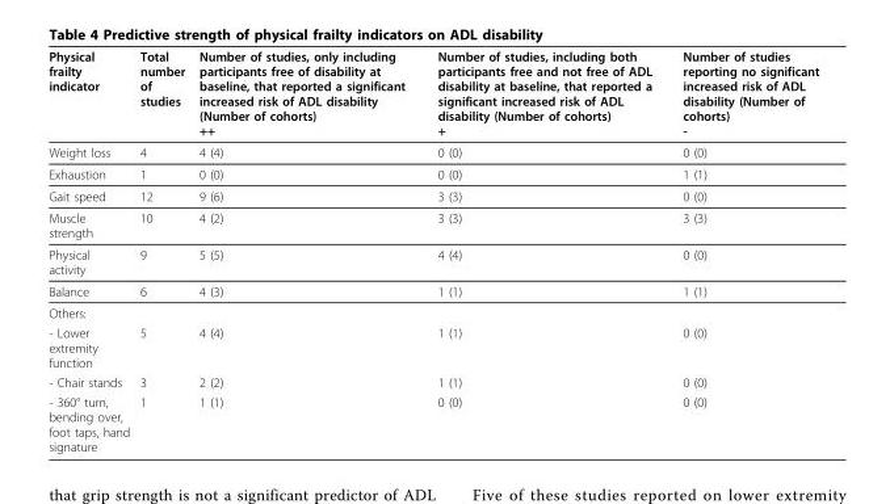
<table><thead><tr><td>Physical frailty indicator</td><td>Total number of studies</td><td>Number of studies, only including participants free of disability at baseline, that reported a significant increased risk of ADL disability (Number of cohorts) ++</td><td>Number of studies, including both participants free and not free of ADL disability at baseline, that reported a significant increased risk of ADL disability (Number of cohorts) +</td><td>Number of studies reporting no significant increased risk of ADL disability (Number of cohorts) -</td></tr></thead><tbody><tr><td>Weight loss</td><td>4</td><td>4 (4)</td><td>0 (0)</td><td>0 (0)</td></tr><tr><td>Exhaustion</td><td>1</td><td>0 (0)</td><td>0 (0)</td><td>1 (1)</td></tr><tr><td>Gait speed</td><td>12</td><td>9 (6)</td><td>3 (3)</td><td>0 (0)</td></tr><tr><td>Muscle strength</td><td>10</td><td>4 (2)</td><td>3 (3)</td><td>3 (3)</td></tr><tr><td>Physical activity</td><td>9</td><td>5 (5)</td><td>4 (4)</td><td>0 (0)</td></tr><tr><td>Balance</td><td>6</td><td>4 (3)</td><td>1 (1)</td><td>1 (1)</td></tr><tr><td colspan="5">Others:</td></tr><tr><td>- Lower extremity function</td><td>5</td><td>4 (4)</td><td>1 (1)</td><td>0 (0)</td></tr><tr><td>- Chair stands</td><td>3</td><td>2 (2)</td><td>1 (1)</td><td>0 (0)</td></tr><tr><td>- 360° turn, bending over, foot taps, hand signature</td><td>1</td><td>1 (1)</td><td>0 (0)</td><td>0 (0)</td></tr></tbody></table>